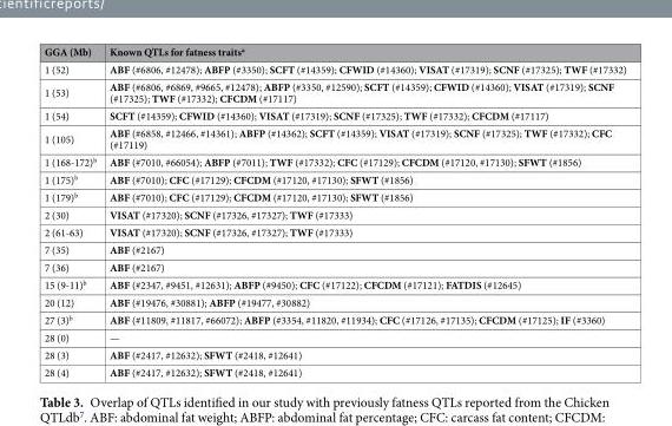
<table><thead><tr><td>GGA (Mb)</td><td>Known QTLs for fatness traits<sup>a</sup></td></tr></thead><tbody><tr><td>1 (52)</td><td>ABF (#6806, #12478); ABFP (#3350); SCFT (#14359); CFWID (#14360); VISAT (#17319); SCNF (#17325); TWF (#17332)</td></tr><tr><td>1 (53)</td><td>ABF (#6806, #6869, #9665, #12478); ABFP (#3350, #12590); SCFT (#14359); CFWID (#14360); VISAT (#17319); SCNF (#17325); TWF (#17332); CFCDM (#17117)</td></tr><tr><td>1 (54)</td><td>SCFT (#14359); CFWID (#14360); VISAT (#17319); SCNF (#17325); TWF (#17332); CFCDM (#17117)</td></tr><tr><td>1 (105)</td><td>ABF (#6858, #12466, #14361); ABFP (#14362); SCFT (#14359); VISAT (#17319); SCNF (#17325); TWF (#17332); CFC (#17119)</td></tr><tr><td>1 (168-172)<sup>b</sup></td><td>ABF (#7010, #66054); ABFP (#7011); TWF (#17332); CFC (#17129); CFCDM (#17120, #17130); SFWT (#1856)</td></tr><tr><td>1 (175)<sup>b</sup></td><td>ABF (#7010); CFC (#17129); CFCDM (#17120, #17130); SFWT (#1856)</td></tr><tr><td>1 (179)<sup>b</sup></td><td>ABF (#7010); CFC (#17129); CFCDM (#17120, #17130); SFWT (#1856)</td></tr><tr><td>2 (30)</td><td>VISAT (#17320); SCNF (#17326, #17327); TWF (#17333)</td></tr><tr><td>2 (61-63)</td><td>VISAT (#17320); SCNF (#17326, #17327); TWF (#17333)</td></tr><tr><td>7 (35)</td><td>ABF (#2167)</td></tr><tr><td>7 (36)</td><td>ABF (#2167)</td></tr><tr><td>15 (9-11)<sup>b</sup></td><td>ABF (#2347, #9451, #12631); ABFP (#9450); CFC (#17122); CFCDM (#17121); FATDIS (#12645)</td></tr><tr><td>20 (12)</td><td>ABF (#19476, #30881); ABFP (#19477, #30882)</td></tr><tr><td>27 (3)<sup>b</sup></td><td>ABF (#11809, #11817, #66072); ABFP (#3354, #11820, #11934); CFC (#17126, #17135); CFCDM (#17125); IF (#3360)</td></tr><tr><td>28 (0)</td><td>—</td></tr><tr><td>28 (3)</td><td>ABF (#2417, #12632); SFWT (#2418, #12641)</td></tr><tr><td>28 (4)</td><td>ABF (#2417, #12632); SFWT (#2418, #12641)</td></tr></tbody></table>